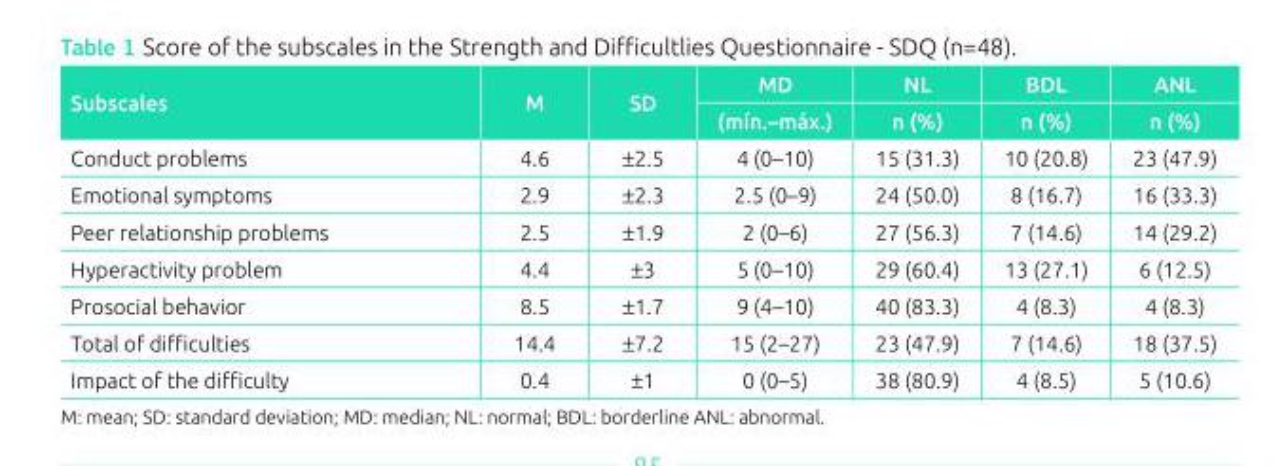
<table><thead><tr><td rowspan="2">Subscales</td><td rowspan="2">M</td><td rowspan="2">SD</td><td rowspan="2">MD (mín.–máx.)</td><td rowspan="2">NL n (%)</td><td rowspan="2">BDL n (%)</td><td rowspan="2">ANL n (%)</td></tr><tr></tr></thead><tbody><tr><td>Conduct problems</td><td>4.6</td><td>±2.5</td><td>4 (0–10)</td><td>15 (31.3)</td><td>10 (20.8)</td><td>23 (47.9)</td></tr><tr><td>Emotional symptoms</td><td>2.9</td><td>±2.3</td><td>2.5 (0–9)</td><td>24 (50.0)</td><td>8 (16.7)</td><td>16 (33.3)</td></tr><tr><td>Peer relationship problems</td><td>2.5</td><td>±1.9</td><td>2 (0–6)</td><td>27 (56.3)</td><td>7 (14.6)</td><td>14 (29.2)</td></tr><tr><td>Hyperactivity problem</td><td>4.4</td><td>±3</td><td>5 (0–10)</td><td>29 (60.4)</td><td>13 (27.1)</td><td>6 (12.5)</td></tr><tr><td>Prosocial behavior</td><td>8.5</td><td>±1.7</td><td>9 (4–10)</td><td>40 (83.3)</td><td>4 (8.3)</td><td>4 (8.3)</td></tr><tr><td>Total of difficulties</td><td>14.4</td><td>±7.2</td><td>15 (2–27)</td><td>23 (47.9)</td><td>7 (14.6)</td><td>18 (37.5)</td></tr><tr><td>Impact of the difficulty</td><td>0.4</td><td>±1</td><td>0 (0–5)</td><td>38 (80.9)</td><td>4 (8.5)</td><td>5 (10.6)</td></tr></tbody></table>